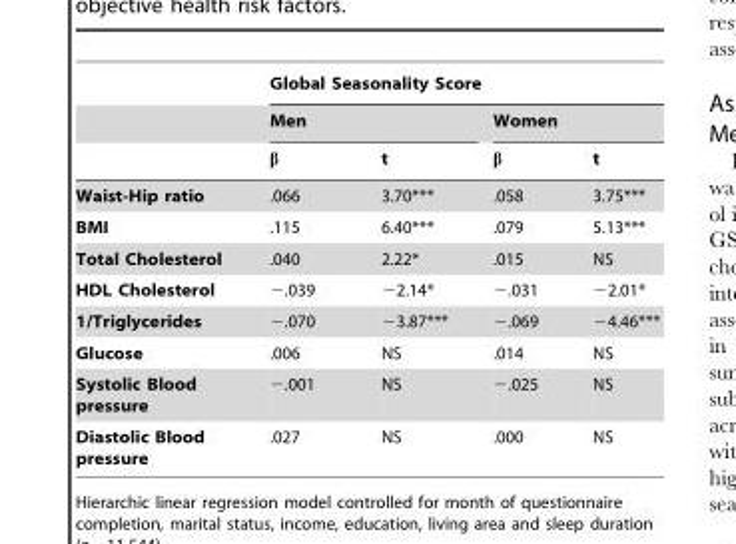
<table><thead><tr><td rowspan="3"></td><td colspan="4">Global Seasonality Score</td></tr><tr><td colspan="2">Men</td><td colspan="2">Women</td></tr><tr><td>β</td><td>t</td><td>β</td><td>t</td></tr></thead><tbody><tr><td>Waist-Hip ratio</td><td>.066</td><td>3.70***</td><td>.058</td><td>3.75***</td></tr><tr><td>BMI</td><td>.115</td><td>6.40***</td><td>.079</td><td>5.13***</td></tr><tr><td>Total Cholesterol</td><td>.040</td><td>2.22*</td><td>.015</td><td>NS</td></tr><tr><td>HDL Cholesterol</td><td>−.039</td><td>−2.14*</td><td>−.031</td><td>−2.01*</td></tr><tr><td>1/Triglycerides</td><td>−.070</td><td>−3.87***</td><td>−.069</td><td>−4.46***</td></tr><tr><td>Glucose</td><td>.006</td><td>NS</td><td>.014</td><td>NS</td></tr><tr><td>Systolic Blood pressure</td><td>−.001</td><td>NS</td><td>−.025</td><td>NS</td></tr><tr><td>Diastolic Blood pressure</td><td>.027</td><td>NS</td><td>.000</td><td>NS</td></tr></tbody></table>